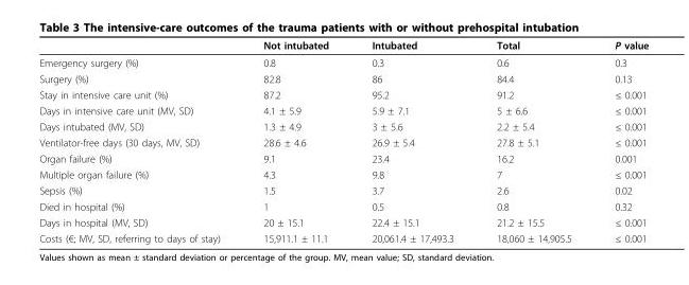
<table><thead><tr><td></td><td>Not intubated</td><td>Intubated</td><td>Total</td><td>P value</td></tr></thead><tbody><tr><td>Emergency surgery (%)</td><td>0.8</td><td>0.3</td><td>0.6</td><td>0.3</td></tr><tr><td>Surgery (%)</td><td>82.8</td><td>86</td><td>84.4</td><td>0.13</td></tr><tr><td>Stay in intensive care unit (%)</td><td>87.2</td><td>95.2</td><td>91.2</td><td>≤ 0.001</td></tr><tr><td>Days in intensive care unit (MV, SD)</td><td>4.1 ± 5.9</td><td>5.9 ± 7.1</td><td>5 ± 6.6</td><td>≤ 0.001</td></tr><tr><td>Days intubated (MV, SD)</td><td>1.3 ± 4.9</td><td>3 ± 5.6</td><td>2.2 ± 5.4</td><td>≤ 0.001</td></tr><tr><td>Ventilator-free days (30 days, MV, SD)</td><td>28.6 ± 4.6</td><td>26.9 ± 5.4</td><td>27.8 ± 5.1</td><td>≤ 0.001</td></tr><tr><td>Organ failure (%)</td><td>9.1</td><td>23.4</td><td>16.2</td><td>0.001</td></tr><tr><td>Multiple organ failure (%)</td><td>4.3</td><td>9.8</td><td>7</td><td>≤ 0.001</td></tr><tr><td>Sepsis (%)</td><td>1.5</td><td>3.7</td><td>2.6</td><td>0.02</td></tr><tr><td>Died in hospital (%)</td><td>1</td><td>0.5</td><td>0.8</td><td>0.32</td></tr><tr><td>Days in hospital (MV, SD)</td><td>20 ± 15.1</td><td>22.4 ± 15.1</td><td>21.2 ± 15.5</td><td>≤ 0.001</td></tr><tr><td>Costs (€; MV, SD, referring to days of stay)</td><td>15,911.1 ± 11.1</td><td>20,061.4 ± 17,493.3</td><td>18,060 ± 14,905.5</td><td>≤ 0.001</td></tr></tbody></table>